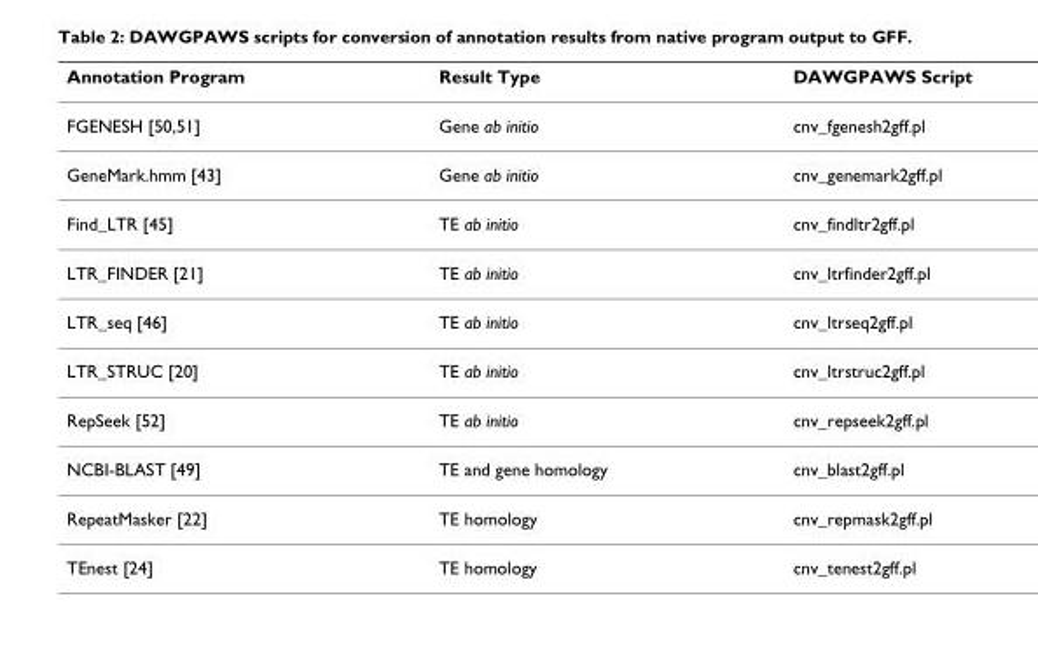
<table><thead><tr><td>Annotation Program</td><td>Result Type</td><td>DAWGPAWS Script</td></tr></thead><tbody><tr><td>FGENESH [50,51]</td><td>Gene ab initio</td><td>cnv_fgenesh2gff.pl</td></tr><tr><td>GeneMark.hmm [43]</td><td>Gene ab initio</td><td>cnv_genemark2gff.pl</td></tr><tr><td>Find_LTR [45]</td><td>TE ab initio</td><td>cnv_findltr2gff.pl</td></tr><tr><td>LTR_FINDER [21]</td><td>TE ab initio</td><td>cnv_ltrfinder2gff.pl</td></tr><tr><td>LTR_seq [46]</td><td>TE ab initio</td><td>cnv_ltrseq2gff.pl</td></tr><tr><td>LTR_STRUC [20]</td><td>TE ab initio</td><td>cnv_ltrstruc2gff.pl</td></tr><tr><td>RepSeek [52]</td><td>TE ab initio</td><td>cnv_repseek2gff.pl</td></tr><tr><td>NCBI-BLAST [49]</td><td>TE and gene homology</td><td>cnv_blast2gff.pl</td></tr><tr><td>RepeatMasker [22]</td><td>TE homology</td><td>cnv_repmask2gff.pl</td></tr><tr><td>TEnest [24]</td><td>TE homology</td><td>cnv_tenest2gff.pl</td></tr></tbody></table>